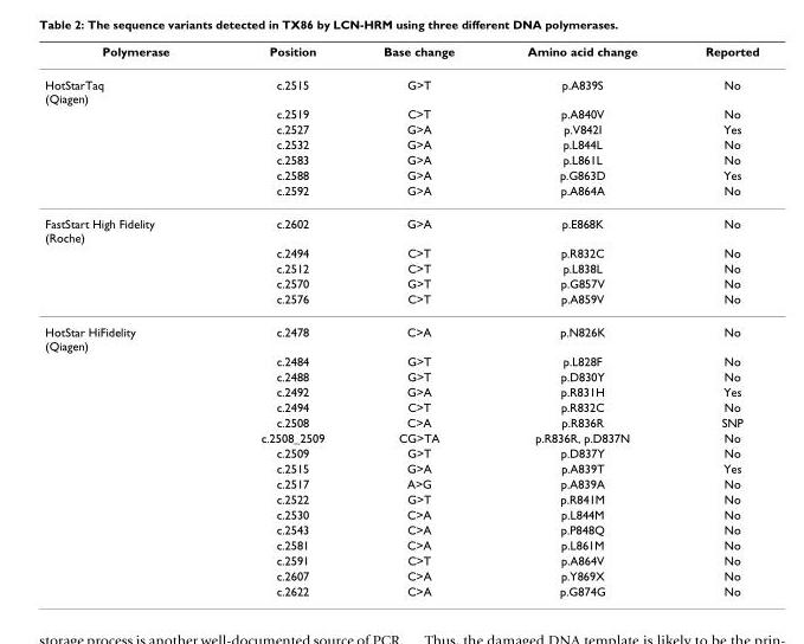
<table><thead><tr><td>Polymerase</td><td>Position</td><td>Base change</td><td>Amino acid change</td><td>Reported</td></tr></thead><tbody><tr><td rowspan="7">HotStarTaq (Qiagen)</td><td>c.2515</td><td>G&gt;T</td><td>p.A839S</td><td>No</td></tr><tr><td>c.2519</td><td>C&gt;T</td><td>p.A840V</td><td>No</td></tr><tr><td>c.2527</td><td>G&gt;A</td><td>p.V842I</td><td>Yes</td></tr><tr><td>c.2532</td><td>G&gt;A</td><td>p.L844L</td><td>No</td></tr><tr><td>c.2583</td><td>G&gt;A</td><td>p.L861L</td><td>No</td></tr><tr><td>c.2588</td><td>G&gt;A</td><td>p.G863D</td><td>Yes</td></tr><tr><td>c.2592</td><td>G&gt;A</td><td>p.A864A</td><td>No</td></tr><tr><td rowspan="5">FastStart High Fidelity (Roche)</td><td>c.2602</td><td>G&gt;A</td><td>p.E868K</td><td>No</td></tr><tr><td>c.2494</td><td>C&gt;T</td><td>p.R832C</td><td>No</td></tr><tr><td>c.2512</td><td>C&gt;T</td><td>p.L838L</td><td>No</td></tr><tr><td>c.2570</td><td>G&gt;T</td><td>p.G857V</td><td>No</td></tr><tr><td>c.2576</td><td>C&gt;T</td><td>p.A859V</td><td>No</td></tr><tr><td rowspan="17">HotStar HiFidelity (Qiagen)</td><td>c.2478</td><td>C&gt;A</td><td>p.N826K</td><td>No</td></tr><tr><td>c.2484</td><td>G&gt;T</td><td>p.L828F</td><td>No</td></tr><tr><td>c.2488</td><td>G&gt;T</td><td>p.D830Y</td><td>No</td></tr><tr><td>c.2492</td><td>G&gt;A</td><td>p.R831H</td><td>Yes</td></tr><tr><td>c.2494</td><td>C&gt;T</td><td>p.R832C</td><td>No</td></tr><tr><td>c.2508</td><td>C&gt;A</td><td>p.R836R</td><td>SNP</td></tr><tr><td>c.2508_2509</td><td>CG&gt;TA</td><td>p.R836R, p.D837N</td><td>No</td></tr><tr><td>c.2509</td><td>G&gt;T</td><td>p.D837Y</td><td>No</td></tr><tr><td>c.2515</td><td>G&gt;A</td><td>p.A839T</td><td>Yes</td></tr><tr><td>c.2517</td><td>A&gt;G</td><td>p.A839A</td><td>No</td></tr><tr><td>c.2522</td><td>G&gt;T</td><td>p.R841M</td><td>No</td></tr><tr><td>c.2530</td><td>C&gt;A</td><td>p.L844M</td><td>No</td></tr><tr><td>c.2543</td><td>C&gt;A</td><td>p.P848Q</td><td>No</td></tr><tr><td>c.2581</td><td>C&gt;A</td><td>p.L861M</td><td>No</td></tr><tr><td>c.2591</td><td>C&gt;T</td><td>p.A864V</td><td>No</td></tr><tr><td>c.2607</td><td>C&gt;A</td><td>p.Y869X</td><td>No</td></tr><tr><td>c.2622</td><td>C&gt;A</td><td>p.G874G</td><td>No</td></tr></tbody></table>